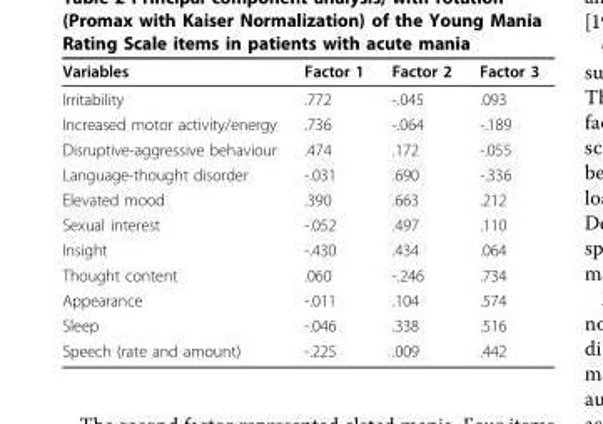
<table><thead><tr><td>Variables</td><td>Factor 1</td><td>Factor 2</td><td>Factor 3</td></tr></thead><tbody><tr><td>Irritability</td><td>.772</td><td>-.045</td><td>.093</td></tr><tr><td>Increased motor activity/energy</td><td>.736</td><td>-.064</td><td>-.189</td></tr><tr><td>Disruptive-aggressive behaviour</td><td>.474</td><td>.172</td><td>-.055</td></tr><tr><td>Language-thought disorder</td><td>-.031</td><td>.690</td><td>-.336</td></tr><tr><td>Elevated mood</td><td>.390</td><td>.663</td><td>.212</td></tr><tr><td>Sexual interest</td><td>-.052</td><td>.497</td><td>.110</td></tr><tr><td>Insight</td><td>-.430</td><td>.434</td><td>.064</td></tr><tr><td>Thought content</td><td>.060</td><td>-.246</td><td>.734</td></tr><tr><td>Appearance</td><td>-.011</td><td>.104</td><td>.574</td></tr><tr><td>Sleep</td><td>-.046</td><td>.338</td><td>.516</td></tr><tr><td>Speech (rate and amount)</td><td>-.225</td><td>.009</td><td>.442</td></tr></tbody></table>